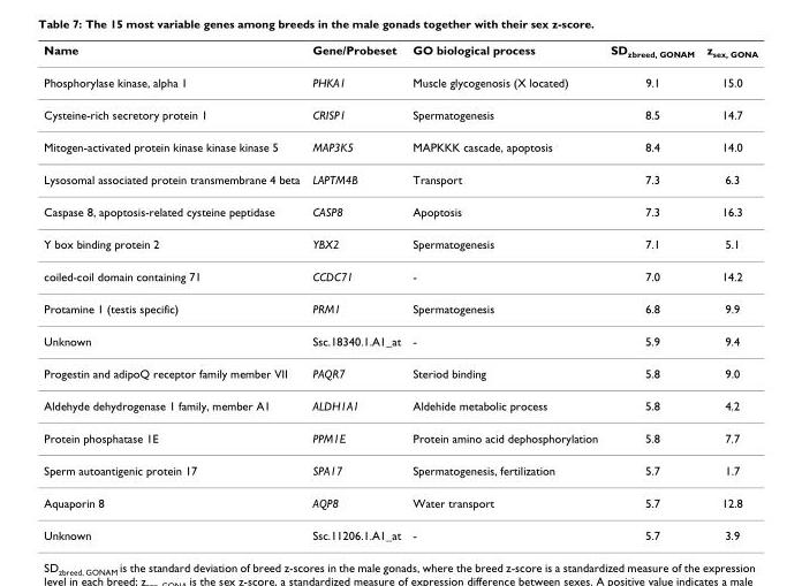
<table><thead><tr><td>Name</td><td>Gene/Probeset</td><td>GO biological process</td><td>SD<sub>zbreed, GONAM</sub></td><td>z<sub>sex, GONA</sub></td></tr></thead><tbody><tr><td>Phosphorylase kinase, alpha 1</td><td>PHKA1</td><td>Muscle glycogenosis (X located)</td><td>9.1</td><td>15.0</td></tr><tr><td>Cysteine-rich secretory protein 1</td><td>CRISP1</td><td>Spermatogenesis</td><td>8.5</td><td>14.7</td></tr><tr><td>Mitogen-activated protein kinase kinase kinase 5</td><td>MAP3K5</td><td>MAPKKK cascade, apoptosis</td><td>8.4</td><td>14.0</td></tr><tr><td>Lysosomal associated protein transmembrane 4 beta</td><td>LAPTM4B</td><td>Transport</td><td>7.3</td><td>6.3</td></tr><tr><td>Caspase 8, apoptosis-related cysteine peptidase</td><td>CASP8</td><td>Apoptosis</td><td>7.3</td><td>16.3</td></tr><tr><td>Y box binding protein 2</td><td>YBX2</td><td>Spermatogenesis</td><td>7.1</td><td>5.1</td></tr><tr><td>coiled-coil domain containing 71</td><td>CCDC71</td><td>-</td><td>7.0</td><td>14.2</td></tr><tr><td>Protamine 1 (testis specific)</td><td>PRM1</td><td>Spermatogenesis</td><td>6.8</td><td>9.9</td></tr><tr><td>Unknown</td><td>Ssc.18340.1.A1_at</td><td>-</td><td>5.9</td><td>9.4</td></tr><tr><td>Progestin and adipoQ receptor family member VII</td><td>PAQR7</td><td>Steriod binding</td><td>5.8</td><td>9.0</td></tr><tr><td>Aldehyde dehydrogenase 1 family, member A1</td><td>ALDH1A1</td><td>Aldehide metabolic process</td><td>5.8</td><td>4.2</td></tr><tr><td>Protein phosphatase 1E</td><td>PPM1E</td><td>Protein amino acid dephosphorylation</td><td>5.8</td><td>7.7</td></tr><tr><td>Sperm autoantigenic protein 17</td><td>SPA17</td><td>Spermatogenesis, fertilization</td><td>5.7</td><td>1.7</td></tr><tr><td>Aquaporin 8</td><td>AQP8</td><td>Water transport</td><td>5.7</td><td>12.8</td></tr><tr><td>Unknown</td><td>Ssc.11206.1.A1_at</td><td>-</td><td>5.7</td><td>3.9</td></tr></tbody></table>